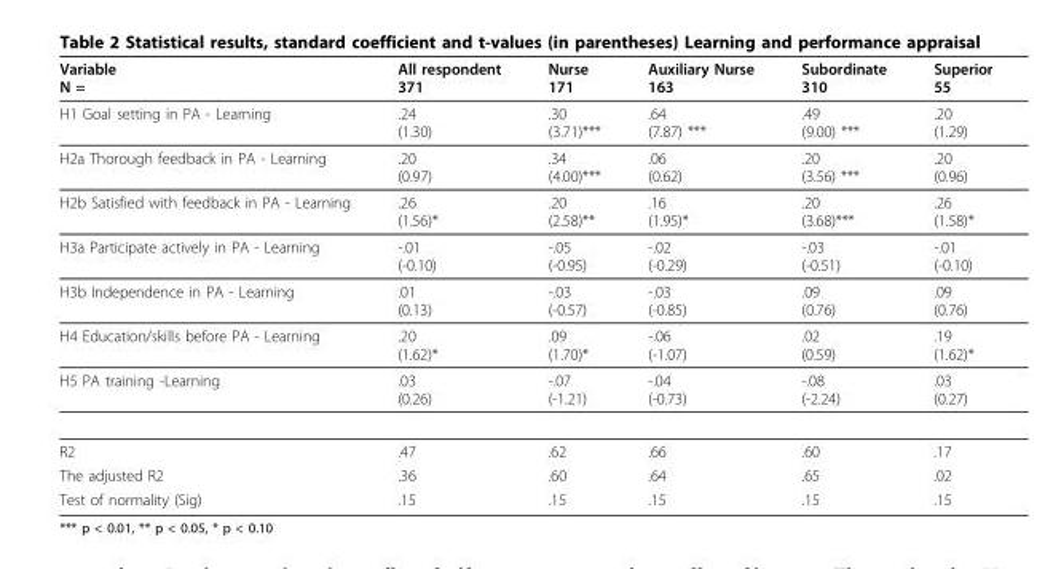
<table><thead><tr><td>Variable N =</td><td>All respondent 371</td><td>Nurse 171</td><td>Auxiliary Nurse 163</td><td>Subordinate 310</td><td>Superior 55</td></tr></thead><tbody><tr><td>H1 Goal setting in PA - Learning</td><td>.24 (1.30)</td><td>.30 (3.71)***</td><td>.64 (7.87) ***</td><td>.49 (9.00) ***</td><td>.20 (1.29)</td></tr><tr><td>H2a Thorough feedback in PA - Learning</td><td>.20 (0.97)</td><td>.34 (4.00)***</td><td>.06 (0.62)</td><td>.20 (3.56) ***</td><td>.20 (0.96)</td></tr><tr><td>H2b Satisfied with feedback in PA - Learning</td><td>.26 (1.56)*</td><td>.20 (2.58)**</td><td>.16 (1.95)*</td><td>.20 (3.68)***</td><td>.26 (1.58)*</td></tr><tr><td>H3a Participate actively in PA - Learning</td><td>-.01 (-0.10)</td><td>-.05 (-0.95)</td><td>-.02 (-0.29)</td><td>-.03 (-0.51)</td><td>-.01 (-0.10)</td></tr><tr><td>H3b Independence in PA - Learning</td><td>.01 (0.13)</td><td>-.03 (-0.57)</td><td>-.03 (-0.85)</td><td>.09 (0.76)</td><td>.09 (0.76)</td></tr><tr><td>H4 Education/skills before PA - Learning</td><td>.20 (1.62)*</td><td>.09 (1.70)*</td><td>-.06 (-1.07)</td><td>.02 (0.59)</td><td>.19 (1.62)*</td></tr><tr><td>H5 PA training -Learning</td><td>.03 (0.26)</td><td>-.07 (-1.21)</td><td>-.04 (-0.73)</td><td>-.08 (-2.24)</td><td>.03 (0.27)</td></tr><tr><td>R2</td><td>.47</td><td>.62</td><td>.66</td><td>.60</td><td>.17</td></tr><tr><td>The adjusted R2</td><td>.36</td><td>.60</td><td>.64</td><td>.65</td><td>.02</td></tr><tr><td>Test of normality (Sig)</td><td>.15</td><td>.15</td><td>.15</td><td>.15</td><td>.15</td></tr></tbody></table>